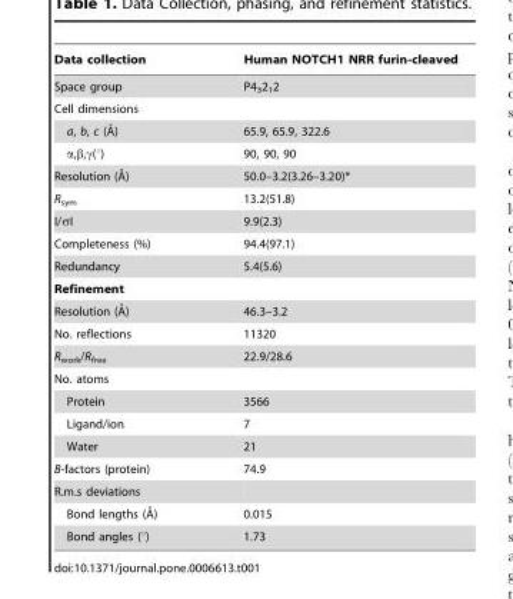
<table><thead><tr><td>Data collection</td><td>Human NOTCH1 NRR furin-cleaved</td></tr></thead><tbody><tr><td>Space group</td><td>P4<sub>3</sub>2<sub>1</sub>2</td></tr><tr><td colspan="2">Cell dimensions</td></tr><tr><td>a, b, c (A˚)</td><td>65.9, 65.9, 322.6</td></tr><tr><td>α,β,γ(°)</td><td>90, 90, 90</td></tr><tr><td>Resolution (A˚)</td><td>50.0–3.2(3.26–3.20)*</td></tr><tr><td>R<sub>sym</sub></td><td>13.2(51.8)</td></tr><tr><td>I/σI</td><td>9.9(2.3)</td></tr><tr><td>Completeness (%)</td><td>94.4(97.1)</td></tr><tr><td>Redundancy</td><td>5.4(5.6)</td></tr><tr><td colspan="2">Refinement</td></tr><tr><td>Resolution (A˚)</td><td>46.3–3.2</td></tr><tr><td>No. reflections</td><td>11320</td></tr><tr><td>R<sub>work</sub>/R<sub>free</sub></td><td>22.9/28.6</td></tr><tr><td colspan="2">No. atoms</td></tr><tr><td>Protein</td><td>3566</td></tr><tr><td>Ligand/ion</td><td>7</td></tr><tr><td>Water</td><td>21</td></tr><tr><td>B-factors (protein)</td><td>74.9</td></tr><tr><td colspan="2">R.m.s deviations</td></tr><tr><td>Bond lengths (A˚)</td><td>0.015</td></tr><tr><td>Bond angles (°)</td><td>1.73</td></tr></tbody></table>